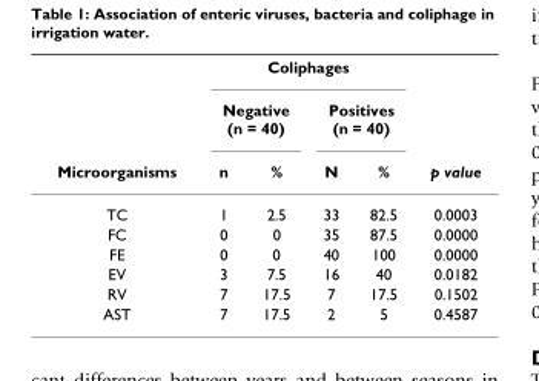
<table><thead><tr><td rowspan="3">Microorganisms</td><td colspan="4">Coliphages</td><td rowspan="3">p value</td></tr><tr><td colspan="2">Negative (n = 40)</td><td colspan="2">Positives (n = 40)</td></tr><tr><td>n</td><td>%</td><td>N</td><td>%</td></tr></thead><tbody><tr><td>TC</td><td>1</td><td>2.5</td><td>33</td><td>82.5</td><td>0.0003</td></tr><tr><td>FC</td><td>0</td><td>0</td><td>35</td><td>87.5</td><td>0.0000</td></tr><tr><td>FE</td><td>0</td><td>0</td><td>40</td><td>100</td><td>0.0000</td></tr><tr><td>EV</td><td>3</td><td>7.5</td><td>16</td><td>40</td><td>0.0182</td></tr><tr><td>RV</td><td>7</td><td>17.5</td><td>7</td><td>17.5</td><td>0.1502</td></tr><tr><td>AST</td><td>7</td><td>17.5</td><td>2</td><td>5</td><td>0.4587</td></tr></tbody></table>